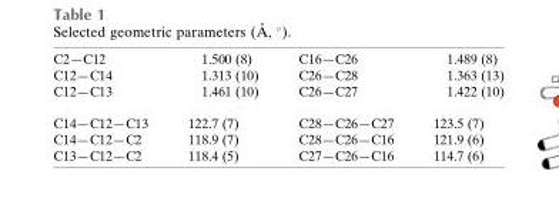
<table><tbody><tr><td>C2—C12</td><td>1.500 (8)</td><td>C16—C26</td><td>1.489 (8)</td></tr><tr><td>C12—C14</td><td>1.313 (10)</td><td>C26—C28</td><td>1.363 (13)</td></tr><tr><td>C12—C13</td><td>1.461 (10)</td><td>C26—C27</td><td>1.422 (10)</td></tr><tr><td>C14—C12—C13</td><td>122.7 (7)</td><td>C28—C26—C27</td><td>123.5 (7)</td></tr><tr><td>C14—C12—C2</td><td>118.9 (7)</td><td>C28—C26—C16</td><td>121.9 (6)</td></tr><tr><td>C13—C12—C2</td><td>118.4 (5)</td><td>C27—C26—C16</td><td>114.7 (6)</td></tr></tbody></table>